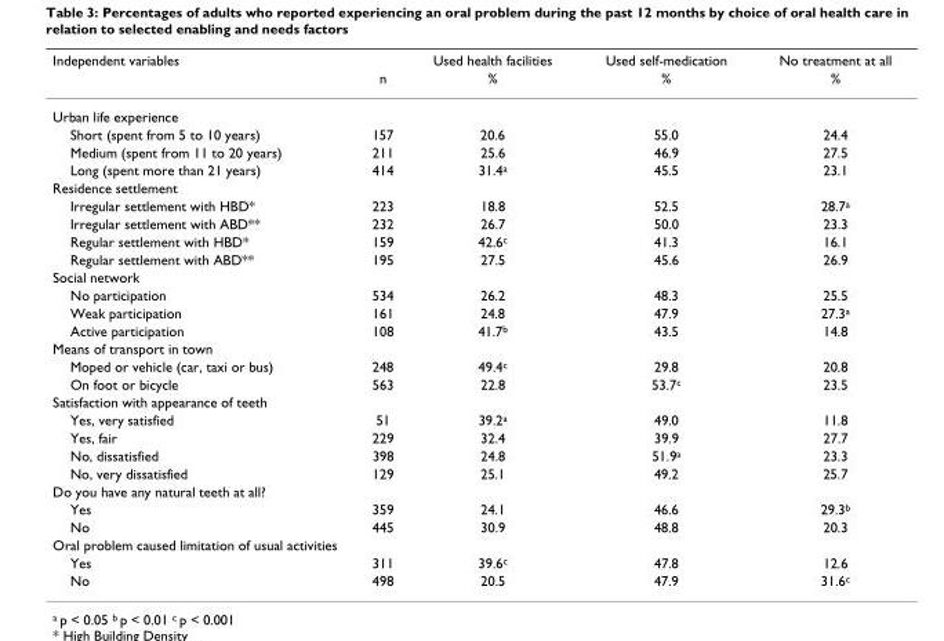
<table><thead><tr><td rowspan="2">Independent variables</td><td rowspan="2">n</td><td rowspan="2">Used health facilities %</td><td rowspan="2">Used self-medication %</td><td rowspan="2">No treatment at all %</td></tr><tr></tr></thead><tbody><tr><td colspan="5">Urban life experience</td></tr><tr><td>Short (spent from 5 to 10 years)</td><td>157</td><td>20.6</td><td>55.0</td><td>24.4</td></tr><tr><td>Medium (spent from 11 to 20 years)</td><td>211</td><td>25.6</td><td>46.9</td><td>27.5</td></tr><tr><td>Long (spent more than 21 years)</td><td>414</td><td>31.4a</td><td>45.5</td><td>23.1</td></tr><tr><td colspan="5">Residence settlement</td></tr><tr><td>Irregular settlement with HBD*</td><td>223</td><td>18.8</td><td>52.5</td><td>28.7a</td></tr><tr><td>Irregular settlement with ABD**</td><td>232</td><td>26.7</td><td>50.0</td><td>23.3</td></tr><tr><td>Regular settlement with HBD*</td><td>159</td><td>42.6c</td><td>41.3</td><td>16.1</td></tr><tr><td>Regular settlement with ABD**</td><td>195</td><td>27.5</td><td>45.6</td><td>26.9</td></tr><tr><td colspan="5">Social network</td></tr><tr><td>No participation</td><td>534</td><td>26.2</td><td>48.3</td><td>25.5</td></tr><tr><td>Weak participation</td><td>161</td><td>24.8</td><td>47.9</td><td>27.3a</td></tr><tr><td>Active participation</td><td>108</td><td>41.7b</td><td>43.5</td><td>14.8</td></tr><tr><td colspan="5">Means of transport in town</td></tr><tr><td>Moped or vehicle (car, taxi or bus)</td><td>248</td><td>49.4c</td><td>29.8</td><td>20.8</td></tr><tr><td>On foot or bicycle</td><td>563</td><td>22.8</td><td>53.7c</td><td>23.5</td></tr><tr><td colspan="5">Satisfaction with appearance of teeth</td></tr><tr><td>Yes, very satisfied</td><td>51</td><td>39.2a</td><td>49.0</td><td>11.8</td></tr><tr><td>Yes, fair</td><td>229</td><td>32.4</td><td>39.9</td><td>27.7</td></tr><tr><td>No, dissatisfied</td><td>398</td><td>24.8</td><td>51.9a</td><td>23.3</td></tr><tr><td>No, very dissatisfied</td><td>129</td><td>25.1</td><td>49.2</td><td>25.7</td></tr><tr><td colspan="5">Do you have any natural teeth at all?</td></tr><tr><td>Yes</td><td>359</td><td>24.1</td><td>46.6</td><td>29.3b</td></tr><tr><td>No</td><td>445</td><td>30.9</td><td>48.8</td><td>20.3</td></tr><tr><td colspan="5">Oral problem caused limitation of usual activities</td></tr><tr><td>Yes</td><td>311</td><td>39.6c</td><td>47.8</td><td>12.6</td></tr><tr><td>No</td><td>498</td><td>20.5</td><td>47.9</td><td>31.6c</td></tr></tbody></table>